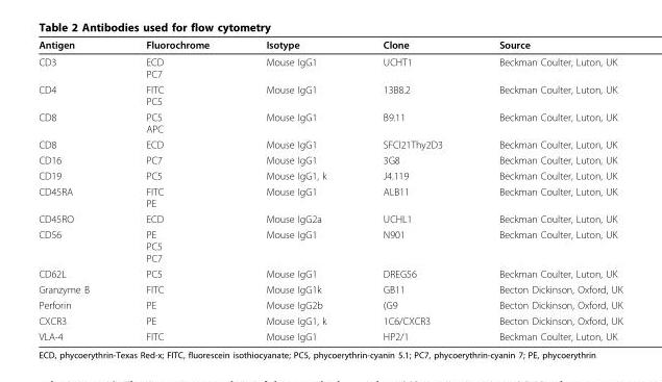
<table><thead><tr><td>Antigen</td><td>Fluorochrome</td><td>Isotype</td><td>Clone</td><td>Source</td></tr></thead><tbody><tr><td>CD3</td><td>ECD PC7</td><td>Mouse IgG1</td><td>UCHT1</td><td>Beckman Coulter, Luton, UK</td></tr><tr><td>CD4</td><td>FITC PC5</td><td>Mouse IgG1</td><td>13B8.2</td><td>Beckman Coulter, Luton, UK</td></tr><tr><td>CD8</td><td>PC5 APC</td><td>Mouse IgG1</td><td>B9.11</td><td>Beckman Coulter, Luton, UK</td></tr><tr><td>CD8</td><td>ECD</td><td>Mouse IgG1</td><td>SFCl21Thy2D3</td><td>Beckman Coulter, Luton, UK</td></tr><tr><td>CD16</td><td>PC7</td><td>Mouse IgG1</td><td>3G8</td><td>Beckman Coulter, Luton, UK</td></tr><tr><td>CD19</td><td>PC5</td><td>Mouse IgG1, k</td><td>J4.119</td><td>Beckman Coulter, Luton, UK</td></tr><tr><td>CD45RA</td><td>FITC PE</td><td>Mouse IgG1</td><td>ALB11</td><td>Beckman Coulter, Luton, UK</td></tr><tr><td>CD45RO</td><td>ECD</td><td>Mouse IgG2a</td><td>UCHL1</td><td>Beckman Coulter, Luton, UK</td></tr><tr><td>CD56</td><td>PE PC5 PC7</td><td>Mouse IgG1</td><td>N901</td><td>Beckman Coulter, Luton, UK</td></tr><tr><td>CD62L</td><td>PC5</td><td>Mouse IgG1</td><td>DREG56</td><td>Beckman Coulter, Luton, UK</td></tr><tr><td>Granzyme B</td><td>FITC</td><td>Mouse IgG1k</td><td>GB11</td><td>Becton Dickinson, Oxford, UK</td></tr><tr><td>Perforin</td><td>PE</td><td>Mouse IgG2b</td><td>(G9</td><td>Becton Dickinson, Oxford, UK</td></tr><tr><td>CXCR3</td><td>PE</td><td>Mouse IgG1, k</td><td>1C6/CXCR3</td><td>Becton Dickinson, Oxford, UK</td></tr><tr><td>VLA-4</td><td>FITC</td><td>Mouse IgG1</td><td>HP2/1</td><td>Beckman Coulter, Luton, UK</td></tr></tbody></table>